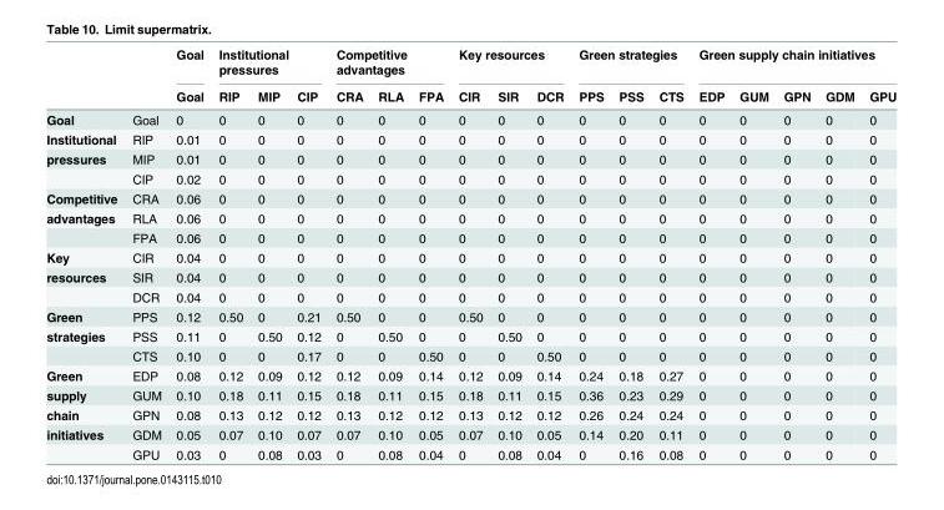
<table><thead><tr><td rowspan="2"></td><td rowspan="2"></td><td rowspan="2">Goal Goal</td><td colspan="3">Institutional pressures</td><td colspan="3">Competitive advantages</td><td colspan="3">Key resources</td><td colspan="3">Green strategies</td><td colspan="5">Green supply chain initiatives</td></tr><tr><td>RIP</td><td>MIP</td><td>CIP</td><td>CRA</td><td>RLA</td><td>FPA</td><td>CIR</td><td>SIR</td><td>DCR</td><td>PPS</td><td>PSS</td><td>CTS</td><td>EDP</td><td>GUM</td><td>GPN</td><td>GDM</td><td>GPU</td></tr></thead><tbody><tr><td>Goal</td><td>Goal</td><td>0</td><td>0</td><td>0</td><td>0</td><td>0</td><td>0</td><td>0</td><td>0</td><td>0</td><td>0</td><td>0</td><td>0</td><td>0</td><td>0</td><td>0</td><td>0</td><td>0</td><td>0</td></tr><tr><td>Institutional</td><td>RIP</td><td>0.01</td><td>0</td><td>0</td><td>0</td><td>0</td><td>0</td><td>0</td><td>0</td><td>0</td><td>0</td><td>0</td><td>0</td><td>0</td><td>0</td><td>0</td><td>0</td><td>0</td><td>0</td></tr><tr><td rowspan="2">pressures</td><td>MIP</td><td>0.01</td><td>0</td><td>0</td><td>0</td><td>0</td><td>0</td><td>0</td><td>0</td><td>0</td><td>0</td><td>0</td><td>0</td><td>0</td><td>0</td><td>0</td><td>0</td><td>0</td><td>0</td></tr><tr><td>CIP</td><td>0.02</td><td>0</td><td>0</td><td>0</td><td>0</td><td>0</td><td>0</td><td>0</td><td>0</td><td>0</td><td>0</td><td>0</td><td>0</td><td>0</td><td>0</td><td>0</td><td>0</td><td>0</td></tr><tr><td>Competitive</td><td>CRA</td><td>0.06</td><td>0</td><td>0</td><td>0</td><td>0</td><td>0</td><td>0</td><td>0</td><td>0</td><td>0</td><td>0</td><td>0</td><td>0</td><td>0</td><td>0</td><td>0</td><td>0</td><td>0</td></tr><tr><td rowspan="2">advantages</td><td>RLA</td><td>0.06</td><td>0</td><td>0</td><td>0</td><td>0</td><td>0</td><td>0</td><td>0</td><td>0</td><td>0</td><td>0</td><td>0</td><td>0</td><td>0</td><td>0</td><td>0</td><td>0</td><td>0</td></tr><tr><td>FPA</td><td>0.06</td><td>0</td><td>0</td><td>0</td><td>0</td><td>0</td><td>0</td><td>0</td><td>0</td><td>0</td><td>0</td><td>0</td><td>0</td><td>0</td><td>0</td><td>0</td><td>0</td><td>0</td></tr><tr><td>Key</td><td>CIR</td><td>0.04</td><td>0</td><td>0</td><td>0</td><td>0</td><td>0</td><td>0</td><td>0</td><td>0</td><td>0</td><td>0</td><td>0</td><td>0</td><td>0</td><td>0</td><td>0</td><td>0</td><td>0</td></tr><tr><td rowspan="2">resources</td><td>SIR</td><td>0.04</td><td>0</td><td>0</td><td>0</td><td>0</td><td>0</td><td>0</td><td>0</td><td>0</td><td>0</td><td>0</td><td>0</td><td>0</td><td>0</td><td>0</td><td>0</td><td>0</td><td>0</td></tr><tr><td>DCR</td><td>0.04</td><td>0</td><td>0</td><td>0</td><td>0</td><td>0</td><td>0</td><td>0</td><td>0</td><td>0</td><td>0</td><td>0</td><td>0</td><td>0</td><td>0</td><td>0</td><td>0</td><td>0</td></tr><tr><td>Green</td><td>PPS</td><td>0.12</td><td>0.50</td><td>0</td><td>0.21</td><td>0.50</td><td>0</td><td>0</td><td>0.50</td><td>0</td><td>0</td><td>0</td><td>0</td><td>0</td><td>0</td><td>0</td><td>0</td><td>0</td><td>0</td></tr><tr><td rowspan="2">strategies</td><td>PSS</td><td>0.11</td><td>0</td><td>0.50</td><td>0.12</td><td>0</td><td>0.50</td><td>0</td><td>0</td><td>0.50</td><td>0</td><td>0</td><td>0</td><td>0</td><td>0</td><td>0</td><td>0</td><td>0</td><td>0</td></tr><tr><td>CTS</td><td>0.10</td><td>0</td><td>0</td><td>0.17</td><td>0</td><td>0</td><td>0.50</td><td>0</td><td>0</td><td>0.50</td><td>0</td><td>0</td><td>0</td><td>0</td><td>0</td><td>0</td><td>0</td><td>0</td></tr><tr><td>Green</td><td>EDP</td><td>0.08</td><td>0.12</td><td>0.09</td><td>0.12</td><td>0.12</td><td>0.09</td><td>0.14</td><td>0.12</td><td>0.09</td><td>0.14</td><td>0.24</td><td>0.18</td><td>0.27</td><td>0</td><td>0</td><td>0</td><td>0</td><td>0</td></tr><tr><td>supply</td><td>GUM</td><td>0.10</td><td>0.18</td><td>0.11</td><td>0.15</td><td>0.18</td><td>0.11</td><td>0.15</td><td>0.18</td><td>0.11</td><td>0.15</td><td>0.36</td><td>0.23</td><td>0.29</td><td>0</td><td>0</td><td>0</td><td>0</td><td>0</td></tr><tr><td>chain</td><td>GPN</td><td>0.08</td><td>0.13</td><td>0.12</td><td>0.12</td><td>0.13</td><td>0.12</td><td>0.12</td><td>0.13</td><td>0.12</td><td>0.12</td><td>0.26</td><td>0.24</td><td>0.24</td><td>0</td><td>0</td><td>0</td><td>0</td><td>0</td></tr><tr><td rowspan="2">initiatives</td><td>GDM</td><td>0.05</td><td>0.07</td><td>0.10</td><td>0.07</td><td>0.07</td><td>0.10</td><td>0.05</td><td>0.07</td><td>0.10</td><td>0.05</td><td>0.14</td><td>0.20</td><td>0.11</td><td>0</td><td>0</td><td>0</td><td>0</td><td>0</td></tr><tr><td>GPU</td><td>0.03</td><td>0</td><td>0.08</td><td>0.03</td><td>0</td><td>0.08</td><td>0.04</td><td>0</td><td>0.08</td><td>0.04</td><td>0</td><td>0.16</td><td>0.08</td><td>0</td><td>0</td><td>0</td><td>0</td><td>0</td></tr></tbody></table>